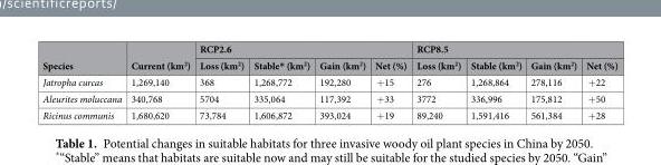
<table><thead><tr><td rowspan="2">Species</td><td rowspan="2">Current (km<sup>2</sup>)</td><td colspan="4">RCP2.6</td><td colspan="4">RCP8.5</td></tr><tr><td>Loss (km<sup>2</sup>)</td><td>Stable* (km<sup>2</sup>)</td><td>Gain (km<sup>2</sup>)</td><td>Net (%)</td><td>Loss (km<sup>2</sup>)</td><td>Stable (km<sup>2</sup>)</td><td>Gain (km<sup>2</sup>)</td><td>Net (%)</td></tr></thead><tbody><tr><td>Jatropha curcas</td><td>1,269,140</td><td>368</td><td>1,268,772</td><td>192,280</td><td>+15</td><td>276</td><td>1,268,864</td><td>278,116</td><td>+22</td></tr><tr><td>Aleurites moluccana</td><td>340,768</td><td>5704</td><td>335,064</td><td>117,392</td><td>+33</td><td>3772</td><td>336,996</td><td>175,812</td><td>+50</td></tr><tr><td>Ricinus communis</td><td>1,680,620</td><td>73,784</td><td>1,606,872</td><td>393,024</td><td>+19</td><td>89,240</td><td>1,591,416</td><td>561,384</td><td>+28</td></tr></tbody></table>